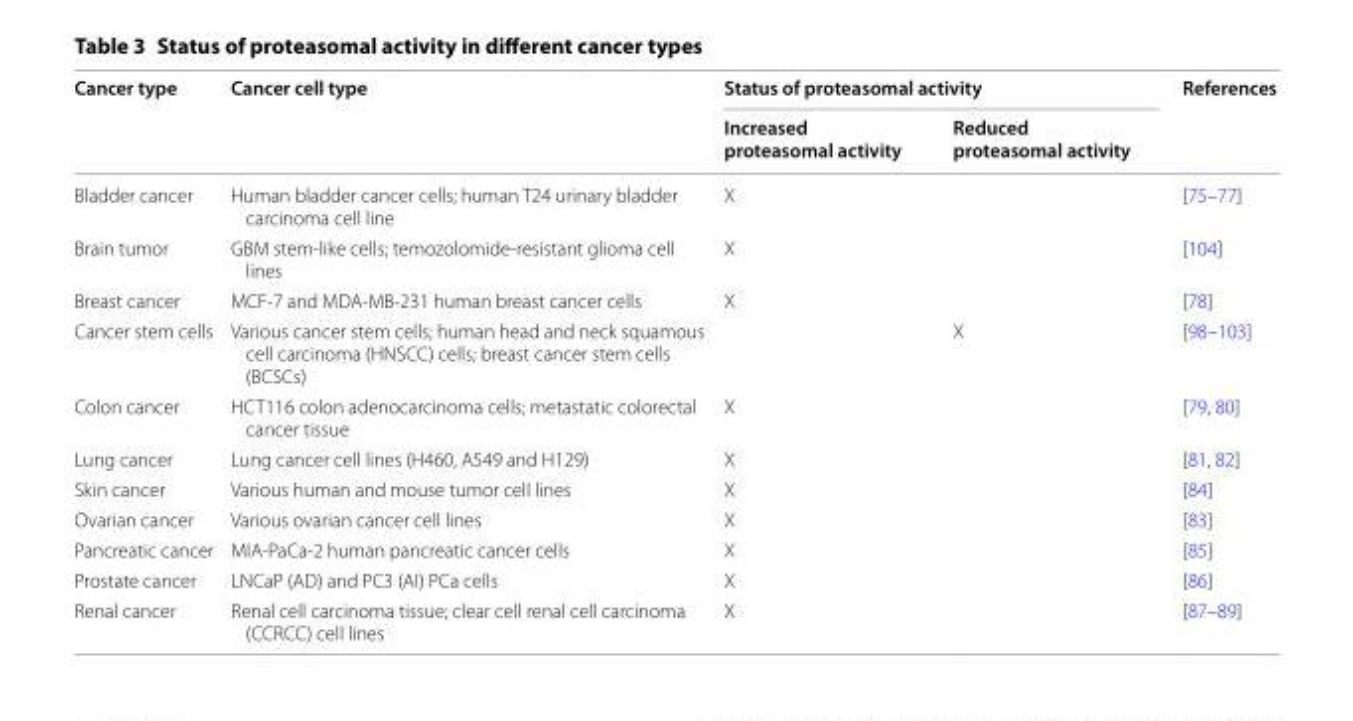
<table><thead><tr><td rowspan="2">Cancer type</td><td rowspan="2">Cancer cell type</td><td colspan="2">Status of proteasomal activity</td><td rowspan="2">References</td></tr><tr><td>Increased proteasomal activity</td><td>Reduced proteasomal activity</td></tr></thead><tbody><tr><td>Bladder cancer</td><td>Human bladder cancer cells; human T24 urinary bladder carcinoma cell line</td><td>X</td><td></td><td>[75–77]</td></tr><tr><td>Brain tumor</td><td>GBM stem-like cells; temozolomide-resistant glioma cell lines</td><td>X</td><td></td><td>[104]</td></tr><tr><td>Breast cancer</td><td>MCF-7 and MDA-MB-231 human breast cancer cells</td><td>X</td><td></td><td>[78]</td></tr><tr><td>Cancer stem cells</td><td>Various cancer stem cells; human head and neck squamous cell carcinoma (HNSCC) cells; breast cancer stem cells (BCSCs)</td><td></td><td>X</td><td>[98–103]</td></tr><tr><td>Colon cancer</td><td>HCT116 colon adenocarcinoma cells; metastatic colorectal cancer tissue</td><td>X</td><td></td><td>[79, 80]</td></tr><tr><td>Lung cancer</td><td>Lung cancer cell lines (H460, A549 and H129)</td><td>X</td><td></td><td>[81, 82]</td></tr><tr><td>Skin cancer</td><td>Various human and mouse tumor cell lines</td><td>X</td><td></td><td>[84]</td></tr><tr><td>Ovarian cancer</td><td>Various ovarian cancer cell lines</td><td>X</td><td></td><td>[83]</td></tr><tr><td>Pancreatic cancer</td><td>MIA-PaCa-2 human pancreatic cancer cells</td><td>X</td><td></td><td>[85]</td></tr><tr><td>Prostate cancer</td><td>LNCaP (AD) and PC3 (AI) PCa cells</td><td>X</td><td></td><td>[86]</td></tr><tr><td>Renal cancer</td><td>Renal cell carcinoma tissue; clear cell renal cell carcinoma (CCRCC) cell lines</td><td>X</td><td></td><td>[87–89]</td></tr></tbody></table>